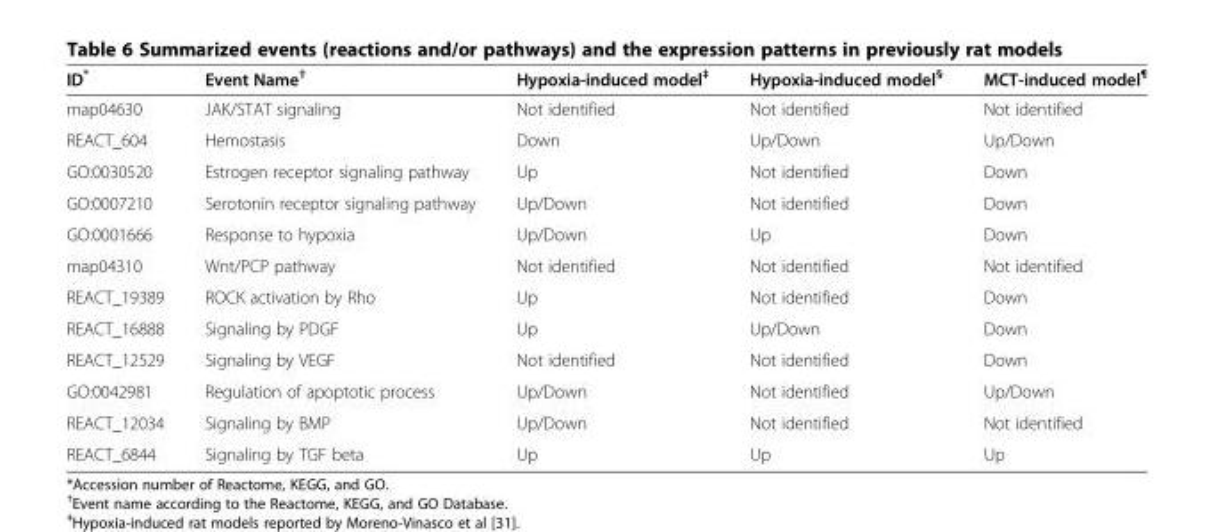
<table><thead><tr><td>ID*</td><td>Event Name<sup>†</sup></td><td>Hypoxia-induced model<sup>‡</sup></td><td>Hypoxia-induced model<sup>§</sup></td><td>MCT-induced model<sup>¶</sup></td></tr></thead><tbody><tr><td>map04630</td><td>JAK/STAT signaling</td><td>Not identified</td><td>Not identified</td><td>Not identified</td></tr><tr><td>REACT_604</td><td>Hemostasis</td><td>Down</td><td>Up/Down</td><td>Up/Down</td></tr><tr><td>GO:0030520</td><td>Estrogen receptor signaling pathway</td><td>Up</td><td>Not identified</td><td>Down</td></tr><tr><td>GO:0007210</td><td>Serotonin receptor signaling pathway</td><td>Up/Down</td><td>Not identified</td><td>Down</td></tr><tr><td>GO:0001666</td><td>Response to hypoxia</td><td>Up/Down</td><td>Up</td><td>Down</td></tr><tr><td>map04310</td><td>Wnt/PCP pathway</td><td>Not identified</td><td>Not identified</td><td>Not identified</td></tr><tr><td>REACT_19389</td><td>ROCK activation by Rho</td><td>Up</td><td>Not identified</td><td>Down</td></tr><tr><td>REACT_16888</td><td>Signaling by PDGF</td><td>Up</td><td>Up/Down</td><td>Down</td></tr><tr><td>REACT_12529</td><td>Signaling by VEGF</td><td>Not identified</td><td>Not identified</td><td>Down</td></tr><tr><td>GO:0042981</td><td>Regulation of apoptotic process</td><td>Up/Down</td><td>Not identified</td><td>Up/Down</td></tr><tr><td>REACT_12034</td><td>Signaling by BMP</td><td>Up/Down</td><td>Not identified</td><td>Not identified</td></tr><tr><td>REACT_6844</td><td>Signaling by TGF beta</td><td>Up</td><td>Up</td><td>Up</td></tr></tbody></table>